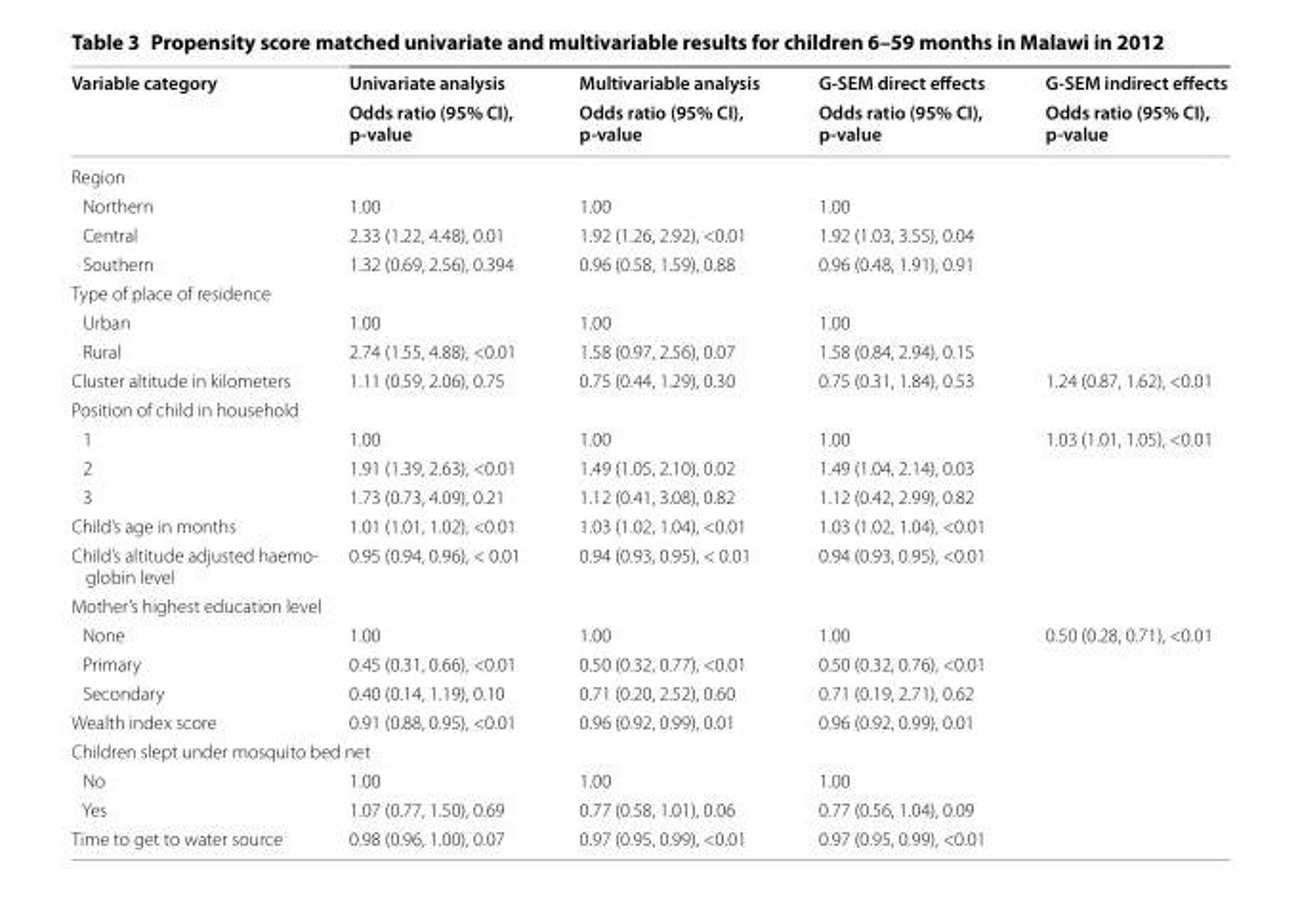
<table><thead><tr><td rowspan="2">Variable category</td><td rowspan="2">Univariate analysis Odds ratio (95% CI), p-value</td><td rowspan="2">Multivariable analysis Odds ratio (95% CI), p-value</td><td rowspan="2">G-SEM direct effects Odds ratio (95% CI), p-value</td><td rowspan="2">G-SEM indirect effects Odds ratio (95% CI), p-value</td></tr><tr></tr></thead><tbody><tr><td colspan="5">Region</td></tr><tr><td>Northern</td><td>1.00</td><td>1.00</td><td>1.00</td><td></td></tr><tr><td>Central</td><td>2.33 (1.22, 4.48), 0.01</td><td>1.92 (1.26, 2.92), &lt;0.01</td><td>1.92 (1.03, 3.55), 0.04</td><td></td></tr><tr><td>Southern</td><td>1.32 (0.69, 2.56), 0.394</td><td>0.96 (0.58, 1.59), 0.88</td><td>0.96 (0.48, 1.91), 0.91</td><td></td></tr><tr><td colspan="5">Type of place of residence</td></tr><tr><td>Urban</td><td>1.00</td><td>1.00</td><td>1.00</td><td></td></tr><tr><td>Rural</td><td>2.74 (1.55, 4.88), &lt;0.01</td><td>1.58 (0.97, 2.56), 0.07</td><td>1.58 (0.84, 2.94), 0.15</td><td></td></tr><tr><td>Cluster altitude in kilometers</td><td>1.11 (0.59, 2.06), 0.75</td><td>0.75 (0.44, 1.29), 0.30</td><td>0.75 (0.31, 1.84), 0.53</td><td>1.24 (0.87, 1.62), &lt;0.01</td></tr><tr><td colspan="5">Position of child in household</td></tr><tr><td>1</td><td>1.00</td><td>1.00</td><td>1.00</td><td rowspan="3">1.03 (1.01, 1.05), &lt;0.01</td></tr><tr><td>2</td><td>1.91 (1.39, 2.63), &lt;0.01</td><td>1.49 (1.05, 2.10), 0.02</td><td>1.49 (1.04, 2.14), 0.03</td></tr><tr><td>3</td><td>1.73 (0.73, 4.09), 0.21</td><td>1.12 (0.41, 3.08), 0.82</td><td>1.12 (0.42, 2.99), 0.82</td></tr><tr><td>Child’s age in months</td><td>1.01 (1.01, 1.02), &lt;0.01</td><td>1.03 (1.02, 1.04), &lt;0.01</td><td>1.03 (1.02, 1.04), &lt;0.01</td><td></td></tr><tr><td>Child’s altitude adjusted haemo- globin level</td><td>0.95 (0.94, 0.96), &lt; 0.01</td><td>0.94 (0.93, 0.95), &lt; 0.01</td><td>0.94 (0.93, 0.95), &lt;0.01</td><td></td></tr><tr><td colspan="5">Mother’s highest education level</td></tr><tr><td>None</td><td>1.00</td><td>1.00</td><td>1.00</td><td rowspan="3">0.50 (0.28, 0.71), &lt;0.01</td></tr><tr><td>Primary</td><td>0.45 (0.31, 0.66), &lt;0.01</td><td>0.50 (0.32, 0.77), &lt;0.01</td><td>0.50 (0.32, 0.76), &lt;0.01</td></tr><tr><td>Secondary</td><td>0.40 (0.14, 1.19), 0.10</td><td>0.71 (0.20, 2.52), 0.60</td><td>0.71 (0.19, 2.71), 0.62</td></tr><tr><td>Wealth index score</td><td>0.91 (0.88, 0.95), &lt;0.01</td><td>0.96 (0.92, 0.99), 0.01</td><td>0.96 (0.92, 0.99), 0.01</td><td></td></tr><tr><td colspan="5">Children slept under mosquito bed net</td></tr><tr><td>No</td><td>1.00</td><td>1.00</td><td>1.00</td><td></td></tr><tr><td>Yes</td><td>1.07 (0.77, 1.50), 0.69</td><td>0.77 (0.58, 1.01), 0.06</td><td>0.77 (0.56, 1.04), 0.09</td><td></td></tr><tr><td>Time to get to water source</td><td>0.98 (0.96, 1.00), 0.07</td><td>0.97 (0.95, 0.99), &lt;0.01</td><td>0.97 (0.95, 0.99), &lt;0.01</td><td></td></tr></tbody></table>